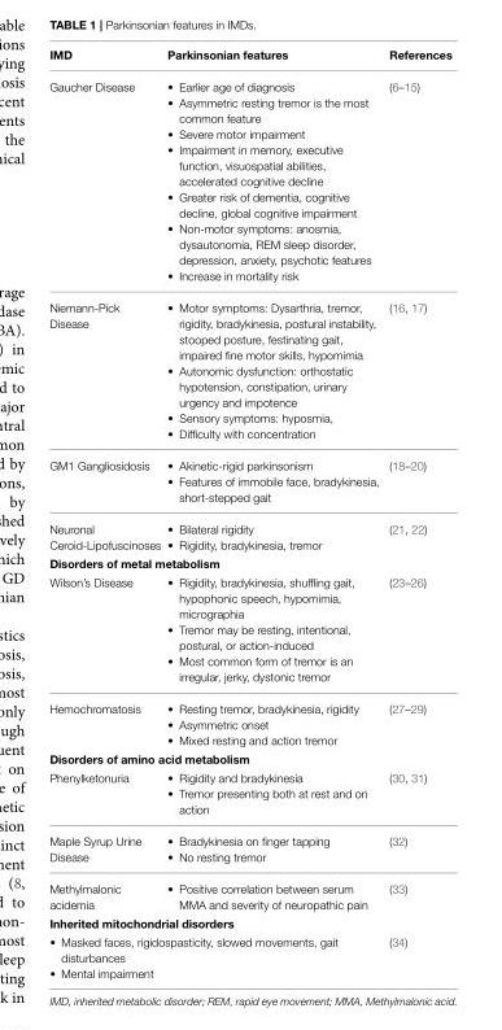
<table><thead><tr><td>IMD</td><td>Parkinsonian features</td><td>References</td></tr></thead><tbody><tr><td>Gaucher Disease</td><td>• Earlier age of diagnosis • Asymmetric resting tremor is the most common feature • Severe motor impairment • Impairment in memory, executive function, visuospatial abilities, accelerated cognitive decline • Greater risk of dementia, cognitive decline, global cognitive impairment • Non-motor symptoms: anosmia, dysautonomia, REM sleep disorder, depression, anxiety, psychotic features • Increase in mortality risk</td><td>(6–15)</td></tr><tr><td>Niemann-Pick Disease</td><td>• Motor symptoms: Dysarthria, tremor, rigidity, bradykinesia, postural instability, stooped posture, festinating gait, impaired fine motor skills, hypomimia • Autonomic dysfunction: orthostatic hypotension, constipation, urinary urgency and impotence • Sensory symptoms: hyposmia, • Difficulty with concentration</td><td>(16, 17)</td></tr><tr><td>GM1 Gangliosidosis</td><td>• Akinetic-rigid parkinsonism • Features of immobile face, bradykinesia, short-stepped gait</td><td>(18–20)</td></tr><tr><td>Neuronal Ceroid-Lipofuscinoses</td><td>• Bilateral rigidity • Rigidity, bradykinesia, tremor</td><td>(21, 22)</td></tr><tr><td colspan="3">Disorders of metal metabolism</td></tr><tr><td>Wilson’s Disease</td><td>• Rigidity, bradykinesia, shuffling gait, hypophonic speech, hypomimia, micrographia • Tremor may be resting, intentional, postural, or action-induced • Most common form of tremor is an irregular, jerky, dystonic tremor</td><td>(23–26)</td></tr><tr><td>Hemochromatosis</td><td>• Resting tremor, bradykinesia, rigidity • Asymmetric onset • Mixed resting and action tremor</td><td>(27–29)</td></tr><tr><td colspan="3">Disorders of amino acid metabolism</td></tr><tr><td>Phenylketonuria</td><td>• Rigidity and bradykinesia • Tremor presenting both at rest and on action</td><td>(30, 31)</td></tr><tr><td>Maple Syrup Urine Disease</td><td>• Bradykinesia on finger tapping • No resting tremor</td><td>(32)</td></tr><tr><td>Methylmalonic acidemia</td><td>• Positive correlation between serum MMA and severity of neuropathic pain</td><td>(33)</td></tr><tr><td colspan="3">Inherited mitochondrial disorders</td></tr><tr><td colspan="2">• Masked faces, rigidospasticity, slowed movements, gait disturbances • Mental impairment</td><td>(34)</td></tr></tbody></table>